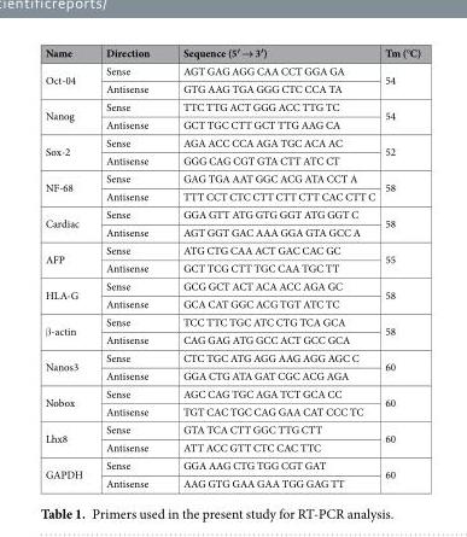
<table><thead><tr><td>Name</td><td>Direction</td><td>Sequence (5′ → 3′)</td><td>Tm (°C)</td></tr></thead><tbody><tr><td rowspan="2">Oct-04</td><td>Sense</td><td>AGT GAG AGG CAA CCT GGA GA</td><td rowspan="2">54</td></tr><tr><td>Antisense</td><td>GTG AAG TGA GGG CTC CCA TA</td></tr><tr><td rowspan="2">Nanog</td><td>Sense</td><td>TTC TTG ACT GGG ACC TTG TC</td><td rowspan="2">54</td></tr><tr><td>Antisense</td><td>GCT TGC CTT GCT TTG AAG CA</td></tr><tr><td rowspan="2">Sox-2</td><td>Sense</td><td>AGA ACC CCA AGA TGC ACA AC</td><td rowspan="2">52</td></tr><tr><td>Antisense</td><td>GGG CAG CGT GTA CTT ATC CT</td></tr><tr><td rowspan="2">NF-68</td><td>Sense</td><td>GAG TGA AAT GGC ACG ATA CCT A</td><td rowspan="2">58</td></tr><tr><td>Antisense</td><td>TTT CCT CTC CTT CTT CTT CAC CTT C</td></tr><tr><td rowspan="2">Cardiac</td><td>Sense</td><td>GGA GTT ATG GTG GGT ATG GGT C</td><td rowspan="2">58</td></tr><tr><td>Antisense</td><td>AGT GGT GAC AAA GGA GTA GCC A</td></tr><tr><td rowspan="2">AFP</td><td>Sense</td><td>ATG CTG CAA ACT GAC CAC GC</td><td rowspan="2">55</td></tr><tr><td>Antisense</td><td>GCT TCG CTT TGC CAA TGC TT</td></tr><tr><td rowspan="2">HLA-G</td><td>Sense</td><td>GCG GCT ACT ACA ACC AGA GC</td><td rowspan="2">58</td></tr><tr><td>Antisense</td><td>GCA CAT GGC ACG TGT ATC TC</td></tr><tr><td rowspan="2">β-actin</td><td>Sense</td><td>TCC TTC TGC ATC CTG TCA GCA</td><td rowspan="2">58</td></tr><tr><td>Antisense</td><td>CAG GAG ATG GCC ACT GCC GCA</td></tr><tr><td rowspan="2">Nanos3</td><td>Sense</td><td>CTC TGC ATG AGG AAG AGG AGC C</td><td rowspan="2">60</td></tr><tr><td>Antisense</td><td>GGA CTG ATA GAT CGC ACG AGA</td></tr><tr><td rowspan="2">Nobox</td><td>Sense</td><td>AGC CAG TGC AGA TCT GCA CC</td><td rowspan="2">60</td></tr><tr><td>Antisense</td><td>TGT CAC TGC CAG GAA CAT CCC TC</td></tr><tr><td rowspan="2">Lhx8</td><td>Sense</td><td>GTA TCA CTT GGC TTG CTT</td><td rowspan="2">60</td></tr><tr><td>Antisense</td><td>ATT ACC GTT CTC CAC TTC</td></tr><tr><td rowspan="2">GAPDH</td><td>Sense</td><td>GGA AAG CTG TGG CGT GAT</td><td rowspan="2">60</td></tr><tr><td>Antisense</td><td>AAG GTG GAA GAA TGG GAG TT</td></tr></tbody></table>